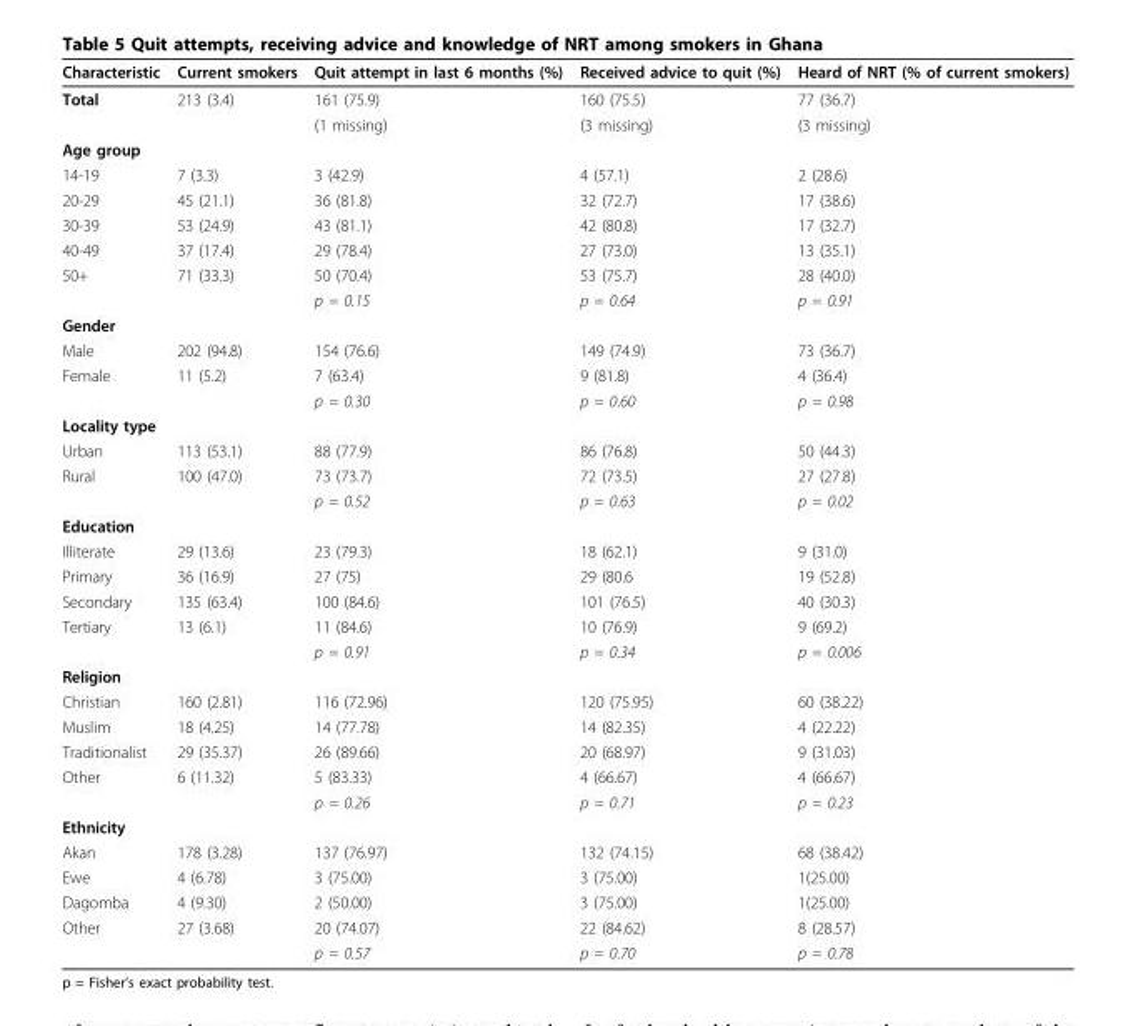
<table><thead><tr><td>Characteristic</td><td>Current smokers</td><td>Quit attempt in last 6 months (%)</td><td>Received advice to quit (%)</td><td>Heard of NRT (% of current smokers)</td></tr></thead><tbody><tr><td rowspan="2">Total</td><td>213 (3.4)</td><td>161 (75.9)</td><td>160 (75.5)</td><td>77 (36.7)</td></tr><tr><td></td><td>(1 missing)</td><td>(3 missing)</td><td>(3 missing)</td></tr><tr><td colspan="5">Age group</td></tr><tr><td>14-19</td><td>7 (3.3)</td><td>3 (42.9)</td><td>4 (57.1)</td><td>2 (28.6)</td></tr><tr><td>20-29</td><td>45 (21.1)</td><td>36 (81.8)</td><td>32 (72.7)</td><td>17 (38.6)</td></tr><tr><td>30-39</td><td>53 (24.9)</td><td>43 (81.1)</td><td>42 (80.8)</td><td>17 (32.7)</td></tr><tr><td>40-49</td><td>37 (17.4)</td><td>29 (78.4)</td><td>27 (73.0)</td><td>13 (35.1)</td></tr><tr><td rowspan="2">50+</td><td>71 (33.3)</td><td>50 (70.4)</td><td>53 (75.7)</td><td>28 (40.0)</td></tr><tr><td></td><td>p = 0.15</td><td>p = 0.64</td><td>p = 0.91</td></tr><tr><td colspan="5">Gender</td></tr><tr><td>Male</td><td>202 (94.8)</td><td>154 (76.6)</td><td>149 (74.9)</td><td>73 (36.7)</td></tr><tr><td rowspan="2">Female</td><td>11 (5.2)</td><td>7 (63.4)</td><td>9 (81.8)</td><td>4 (36.4)</td></tr><tr><td></td><td>p = 0.30</td><td>p = 0.60</td><td>p = 0.98</td></tr><tr><td colspan="5">Locality type</td></tr><tr><td>Urban</td><td>113 (53.1)</td><td>88 (77.9)</td><td>86 (76.8)</td><td>50 (44.3)</td></tr><tr><td rowspan="2">Rural</td><td>100 (47.0)</td><td>73 (73.7)</td><td>72 (73.5)</td><td>27 (27.8)</td></tr><tr><td></td><td>p = 0.52</td><td>p = 0.63</td><td>p = 0.02</td></tr><tr><td colspan="5">Education</td></tr><tr><td>Illiterate</td><td>29 (13.6)</td><td>23 (79.3)</td><td>18 (62.1)</td><td>9 (31.0)</td></tr><tr><td>Primary</td><td>36 (16.9)</td><td>27 (75)</td><td>29 (80.6</td><td>19 (52.8)</td></tr><tr><td>Secondary</td><td>135 (63.4)</td><td>100 (84.6)</td><td>101 (76.5)</td><td>40 (30.3)</td></tr><tr><td rowspan="2">Tertiary</td><td>13 (6.1)</td><td>11 (84.6)</td><td>10 (76.9)</td><td>9 (69.2)</td></tr><tr><td></td><td>p = 0.91</td><td>p = 0.34</td><td>p = 0.006</td></tr><tr><td colspan="5">Religion</td></tr><tr><td>Christian</td><td>160 (2.81)</td><td>116 (72.96)</td><td>120 (75.95)</td><td>60 (38.22)</td></tr><tr><td>Muslim</td><td>18 (4.25)</td><td>14 (77.78)</td><td>14 (82.35)</td><td>4 (22.22)</td></tr><tr><td>Traditionalist</td><td>29 (35.37)</td><td>26 (89.66)</td><td>20 (68.97)</td><td>9 (31.03)</td></tr><tr><td rowspan="2">Other</td><td>6 (11.32)</td><td>5 (83.33)</td><td>4 (66.67)</td><td>4 (66.67)</td></tr><tr><td></td><td>p = 0.26</td><td>p = 0.71</td><td>p = 0.23</td></tr><tr><td colspan="5">Ethnicity</td></tr><tr><td>Akan</td><td>178 (3.28)</td><td>137 (76.97)</td><td>132 (74.15)</td><td>68 (38.42)</td></tr><tr><td>Ewe</td><td>4 (6.78)</td><td>3 (75.00)</td><td>3 (75.00)</td><td>1(25.00)</td></tr><tr><td>Dagomba</td><td>4 (9.30)</td><td>2 (50.00)</td><td>3 (75.00)</td><td>1(25.00)</td></tr><tr><td rowspan="2">Other</td><td>27 (3.68)</td><td>20 (74.07)</td><td>22 (84.62)</td><td>8 (28.57)</td></tr><tr><td></td><td>p = 0.57</td><td>p = 0.70</td><td>p = 0.78</td></tr></tbody></table>